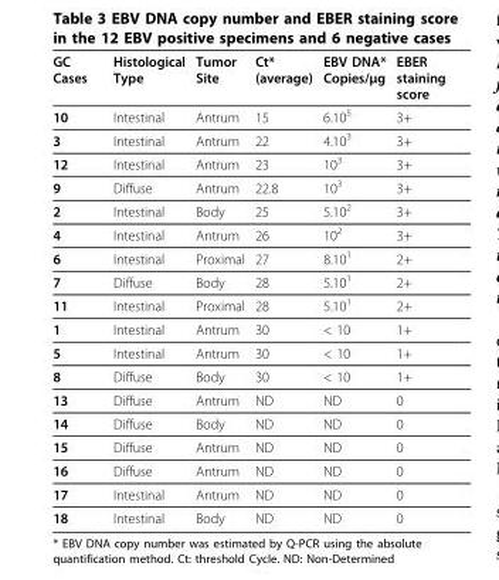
<table><thead><tr><td>GC Cases</td><td>Histological Type</td><td>Tumor Site</td><td>Ct* (average)</td><td>EBV DNA* Copies/μg</td><td>EBER staining score</td></tr></thead><tbody><tr><td>10</td><td>Intestinal</td><td>Antrum</td><td>15</td><td>6.10<sup>5</sup></td><td>3+</td></tr><tr><td>3</td><td>Intestinal</td><td>Antrum</td><td>22</td><td>4.10<sup>3</sup></td><td>3+</td></tr><tr><td>12</td><td>Intestinal</td><td>Antrum</td><td>23</td><td>10<sup>3</sup></td><td>3+</td></tr><tr><td>9</td><td>Diffuse</td><td>Antrum</td><td>22.8</td><td>10<sup>3</sup></td><td>3+</td></tr><tr><td>2</td><td>Intestinal</td><td>Body</td><td>25</td><td>5.10<sup>2</sup></td><td>3+</td></tr><tr><td>4</td><td>Intestinal</td><td>Antrum</td><td>26</td><td>10<sup>2</sup></td><td>3+</td></tr><tr><td>6</td><td>Intestinal</td><td>Proximal</td><td>27</td><td>8.10<sup>1</sup></td><td>2+</td></tr><tr><td>7</td><td>Diffuse</td><td>Body</td><td>28</td><td>5.10<sup>1</sup></td><td>2+</td></tr><tr><td>11</td><td>Intestinal</td><td>Proximal</td><td>28</td><td>5.10<sup>1</sup></td><td>2+</td></tr><tr><td>1</td><td>Intestinal</td><td>Antrum</td><td>30</td><td>&lt; 10</td><td>1+</td></tr><tr><td>5</td><td>Intestinal</td><td>Antrum</td><td>30</td><td>&lt; 10</td><td>1+</td></tr><tr><td>8</td><td>Diffuse</td><td>Body</td><td>30</td><td>&lt; 10</td><td>1+</td></tr><tr><td>13</td><td>Diffuse</td><td>Antrum</td><td>ND</td><td>ND</td><td>0</td></tr><tr><td>14</td><td>Diffuse</td><td>Body</td><td>ND</td><td>ND</td><td>0</td></tr><tr><td>15</td><td>Diffuse</td><td>Antrum</td><td>ND</td><td>ND</td><td>0</td></tr><tr><td>16</td><td>Diffuse</td><td>Antrum</td><td>ND</td><td>ND</td><td>0</td></tr><tr><td>17</td><td>Intestinal</td><td>Antrum</td><td>ND</td><td>ND</td><td>0</td></tr><tr><td>18</td><td>Intestinal</td><td>Body</td><td>ND</td><td>ND</td><td>0</td></tr></tbody></table>